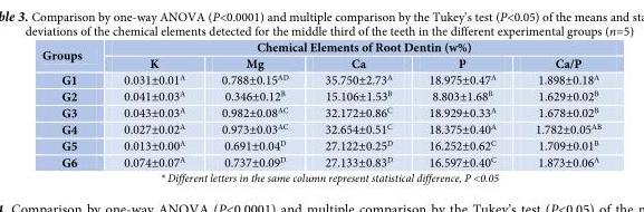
<table><thead><tr><td rowspan="2">Groups</td><td colspan="5">Chemical Elements of Root Dentin (w%)</td></tr><tr><td>K</td><td>Mg</td><td>Ca</td><td>P</td><td>Ca/P</td></tr></thead><tbody><tr><td>G1</td><td>0.031±0.01<sup>A</sup></td><td>0.788±0.15<sup>AD</sup></td><td>35.750±2.73<sup>A</sup></td><td>18.975±0.47<sup>A</sup></td><td>1.898±0.18<sup>A</sup></td></tr><tr><td>G2</td><td>0.041±0.03<sup>A</sup></td><td>0.346±0.12<sup>B</sup></td><td>15.106±1.53<sup>B</sup></td><td>8.803±1.68<sup>B</sup></td><td>1.629±0.02<sup>B</sup></td></tr><tr><td>G3</td><td>0.043±0.03<sup>A</sup></td><td>0.982±0.08<sup>AC</sup></td><td>32.172±0.86<sup>C</sup></td><td>18.929±0.33<sup>A</sup></td><td>1.678±0.02<sup>B</sup></td></tr><tr><td>G4</td><td>0.027±0.02<sup>A</sup></td><td>0.973±0.03<sup>AC</sup></td><td>32.654±0.51<sup>C</sup></td><td>18.375±0.40<sup>A</sup></td><td>1.782±0.05<sup>AB</sup></td></tr><tr><td>G5</td><td>0.013±0.00<sup>A</sup></td><td>0.691±0.04<sup>D</sup></td><td>27.122±0.25<sup>D</sup></td><td>16.252±0.62<sup>C</sup></td><td>1.709±0.01<sup>B</sup></td></tr><tr><td>G6</td><td>0.074±0.07<sup>A</sup></td><td>0.737±0.09<sup>D</sup></td><td>27.133±0.83<sup>D</sup></td><td>16.597±0.40<sup>C</sup></td><td>1.873±0.06<sup>A</sup></td></tr></tbody></table>